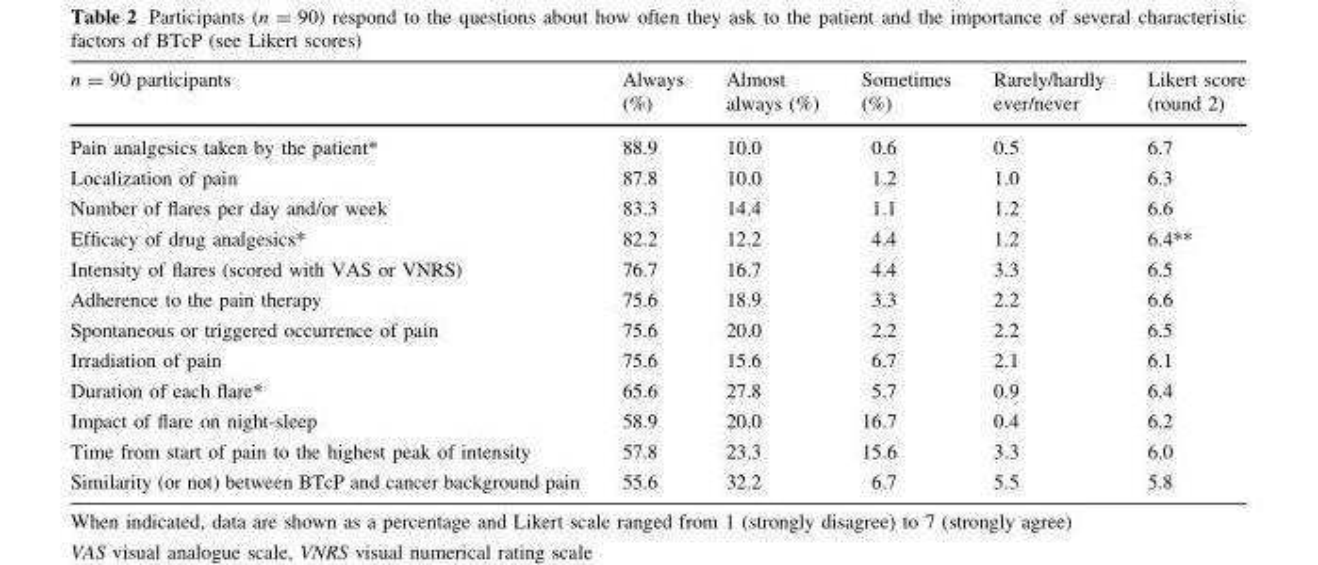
<table><thead><tr><td>n = 90 participants</td><td>Always (%)</td><td>Almost always (%)</td><td>Sometimes (%)</td><td>Rarely/hardly ever/never</td><td>Likert score (round 2)</td></tr></thead><tbody><tr><td>Pain analgesics taken by the patient*</td><td>88.9</td><td>10.0</td><td>0.6</td><td>0.5</td><td>6.7</td></tr><tr><td>Localization of pain</td><td>87.8</td><td>10.0</td><td>1.2</td><td>1.0</td><td>6.3</td></tr><tr><td>Number of flares per day and/or week</td><td>83.3</td><td>14.4</td><td>1.1</td><td>1.2</td><td>6.6</td></tr><tr><td>Efficacy of drug analgesics*</td><td>82.2</td><td>12.2</td><td>4.4</td><td>1.2</td><td>6.4**</td></tr><tr><td>Intensity of flares (scored with VAS or VNRS)</td><td>76.7</td><td>16.7</td><td>4.4</td><td>3.3</td><td>6.5</td></tr><tr><td>Adherence to the pain therapy</td><td>75.6</td><td>18.9</td><td>3.3</td><td>2.2</td><td>6.6</td></tr><tr><td>Spontaneous or triggered occurrence of pain</td><td>75.6</td><td>20.0</td><td>2.2</td><td>2.2</td><td>6.5</td></tr><tr><td>Irradiation of pain</td><td>75.6</td><td>15.6</td><td>6.7</td><td>2.1</td><td>6.1</td></tr><tr><td>Duration of each flare*</td><td>65.6</td><td>27.8</td><td>5.7</td><td>0.9</td><td>6.4</td></tr><tr><td>Impact of flare on night-sleep</td><td>58.9</td><td>20.0</td><td>16.7</td><td>0.4</td><td>6.2</td></tr><tr><td>Time from start of pain to the highest peak of intensity</td><td>57.8</td><td>23.3</td><td>15.6</td><td>3.3</td><td>6.0</td></tr><tr><td>Similarity (or not) between BTcP and cancer background pain</td><td>55.6</td><td>32.2</td><td>6.7</td><td>5.5</td><td>5.8</td></tr></tbody></table>